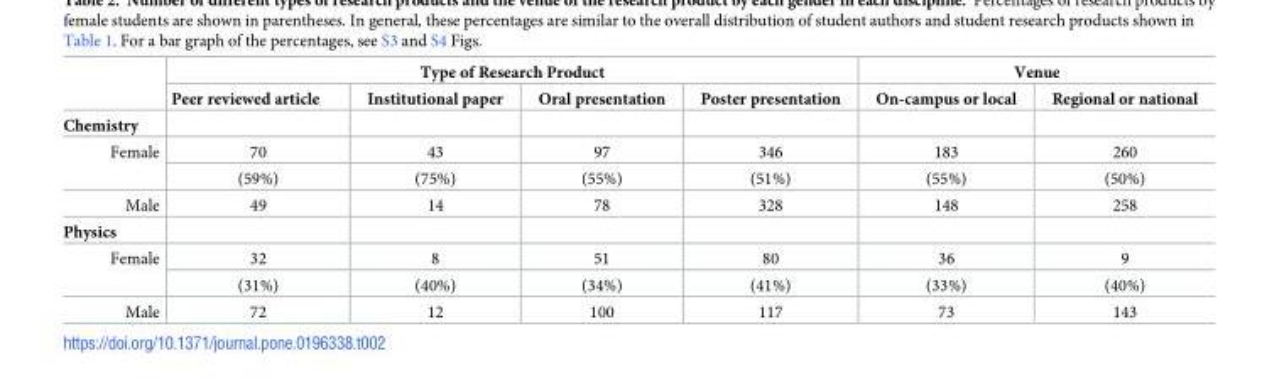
<table><thead><tr><td rowspan="2"></td><td colspan="4">Type of Research Product</td><td colspan="2">Venue</td></tr><tr><td>Peer reviewed article</td><td>Institutional paper</td><td>Oral presentation</td><td>Poster presentation</td><td>On-campus or local</td><td>Regional or national</td></tr></thead><tbody><tr><td colspan="7">Chemistry</td></tr><tr><td rowspan="2">Female</td><td>70</td><td>43</td><td>97</td><td>346</td><td>183</td><td>260</td></tr><tr><td>(59%)</td><td>(75%)</td><td>(55%)</td><td>(51%)</td><td>(55%)</td><td>(50%)</td></tr><tr><td>Male</td><td>49</td><td>14</td><td>78</td><td>328</td><td>148</td><td>258</td></tr><tr><td colspan="7">Physics</td></tr><tr><td rowspan="2">Female</td><td>32</td><td>8</td><td>51</td><td>80</td><td>36</td><td>9</td></tr><tr><td>(31%)</td><td>(40%)</td><td>(34%)</td><td>(41%)</td><td>(33%)</td><td>(40%)</td></tr><tr><td>Male</td><td>72</td><td>12</td><td>100</td><td>117</td><td>73</td><td>143</td></tr></tbody></table>